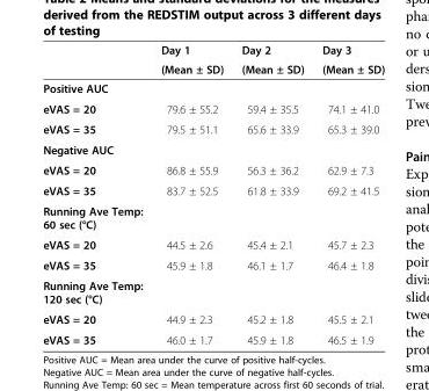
<table><thead><tr><td rowspan="2"></td><td rowspan="2">Day 1 (Mean ± SD)</td><td rowspan="2">Day 2 (Mean ± SD)</td><td rowspan="2">Day 3 (Mean ± SD)</td></tr><tr></tr></thead><tbody><tr><td colspan="4">Positive AUC</td></tr><tr><td>eVAS = 20</td><td>79.6 ± 55.2</td><td>59.4 ± 35.5</td><td>74.1 ± 41.0</td></tr><tr><td>eVAS = 35</td><td>79.5 ± 51.1</td><td>65.6 ± 33.9</td><td>65.3 ± 39.0</td></tr><tr><td colspan="4">Negative AUC</td></tr><tr><td>eVAS = 20</td><td>86.8 ± 55.9</td><td>56.3 ± 36.2</td><td>62.9 ± 7.3</td></tr><tr><td>eVAS = 35</td><td>83.7 ± 52.5</td><td>61.8 ± 33.9</td><td>69.2 ± 41.5</td></tr><tr><td colspan="4">Running Ave Temp: 60 sec (°C)</td></tr><tr><td>eVAS = 20</td><td>44.5 ± 2.6</td><td>45.4 ± 2.1</td><td>45.7 ± 2.3</td></tr><tr><td>eVAS = 35</td><td>45.9 ± 1.8</td><td>46.1 ± 1.7</td><td>46.4 ± 1.8</td></tr><tr><td colspan="4">Running Ave Temp: 120 sec (°C)</td></tr><tr><td>eVAS = 20</td><td>44.9 ± 2.3</td><td>45.2 ± 1.8</td><td>45.5 ± 2.1</td></tr><tr><td>eVAS = 35</td><td>46.0 ± 1.7</td><td>45.9 ± 1.8</td><td>46.5 ± 1.9</td></tr></tbody></table>